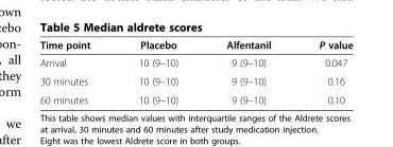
<table><thead><tr><td>Time point</td><td>Placebo</td><td>Alfentanil</td><td>P value</td></tr></thead><tbody><tr><td>Arrival</td><td>10 (9–10)</td><td>9 (9–10)</td><td>0.047</td></tr><tr><td>30 minutes</td><td>10 (9–10)</td><td>9 (9–10)</td><td>0.16</td></tr><tr><td>60 minutes</td><td>10 (9–10)</td><td>9 (9–10)</td><td>0.10</td></tr></tbody></table>